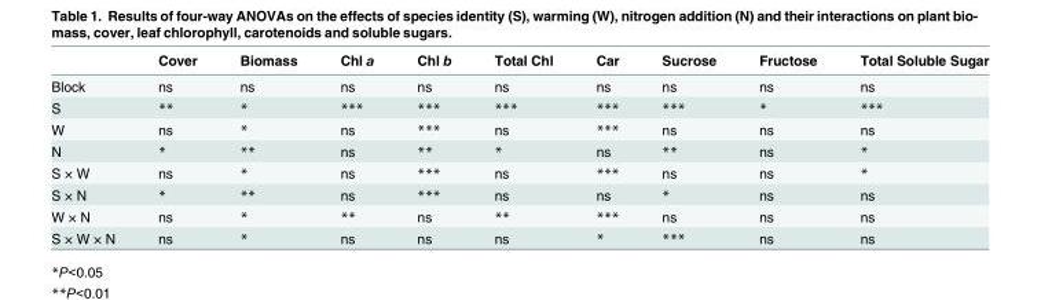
<table><thead><tr><td></td><td>Cover</td><td>Biomass</td><td>Chl a</td><td>Chl b</td><td>Total Chl</td><td>Car</td><td>Sucrose</td><td>Fructose</td><td>Total Soluble Sugar</td></tr></thead><tbody><tr><td>Block</td><td>ns</td><td>ns</td><td>ns</td><td>ns</td><td>ns</td><td>ns</td><td>ns</td><td>ns</td><td>ns</td></tr><tr><td>S</td><td>**</td><td>*</td><td>***</td><td>***</td><td>***</td><td>***</td><td>***</td><td>*</td><td>***</td></tr><tr><td>W</td><td>ns</td><td>*</td><td>ns</td><td>***</td><td>ns</td><td>***</td><td>ns</td><td>ns</td><td>ns</td></tr><tr><td>N</td><td>*</td><td>**</td><td>ns</td><td>**</td><td>*</td><td>ns</td><td>**</td><td>ns</td><td>*</td></tr><tr><td>S × W</td><td>ns</td><td>*</td><td>ns</td><td>***</td><td>ns</td><td>***</td><td>ns</td><td>ns</td><td>*</td></tr><tr><td>S × N</td><td>*</td><td>**</td><td>ns</td><td>***</td><td>ns</td><td>ns</td><td>*</td><td>ns</td><td>ns</td></tr><tr><td>W × N</td><td>ns</td><td>*</td><td>**</td><td>ns</td><td>**</td><td>***</td><td>ns</td><td>ns</td><td>ns</td></tr><tr><td>S × W × N</td><td>ns</td><td>*</td><td>ns</td><td>ns</td><td>ns</td><td>*</td><td>***</td><td>ns</td><td>ns</td></tr></tbody></table>